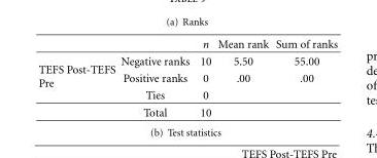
<table><thead><tr><td></td><td></td><td>n</td><td>Mean rank</td><td>Sum of ranks</td></tr></thead><tbody><tr><td rowspan="4">TEFS Post-TEFS Pre</td><td>Negative ranks</td><td>10</td><td>5.50</td><td>55.00</td></tr><tr><td>Positive ranks</td><td>0</td><td>.00</td><td>.00</td></tr><tr><td>Ties</td><td>0</td><td></td><td></td></tr><tr><td>Total</td><td>10</td><td></td><td></td></tr></tbody></table>